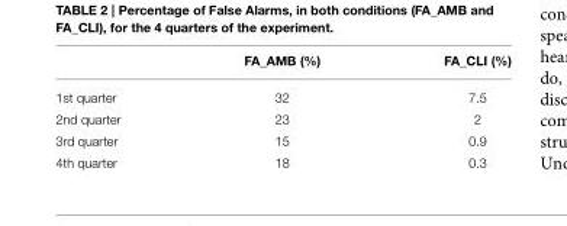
<table><thead><tr><td></td><td>FA_AMB (%)</td><td>FA_CLI (%)</td></tr></thead><tbody><tr><td>1st quarter</td><td>32</td><td>7.5</td></tr><tr><td>2nd quarter</td><td>23</td><td>2</td></tr><tr><td>3rd quarter</td><td>15</td><td>0.9</td></tr><tr><td>4th quarter</td><td>18</td><td>0.3</td></tr></tbody></table>